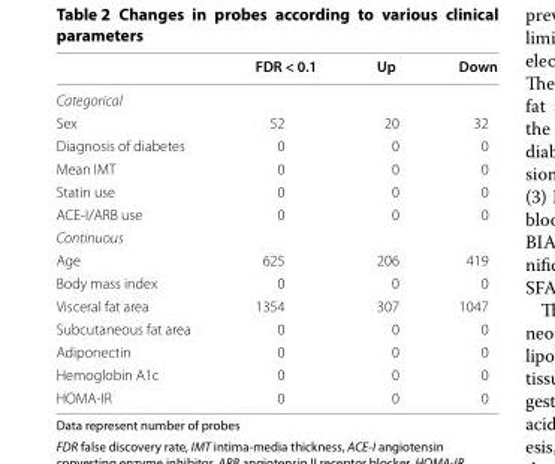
<table><thead><tr><td></td><td>FDR &lt; 0.1</td><td>Up</td><td>Down</td></tr></thead><tbody><tr><td colspan="4">Categorical</td></tr><tr><td>Sex</td><td>52</td><td>20</td><td>32</td></tr><tr><td>Diagnosis of diabetes</td><td>0</td><td>0</td><td>0</td></tr><tr><td>Mean IMT</td><td>0</td><td>0</td><td>0</td></tr><tr><td>Statin use</td><td>0</td><td>0</td><td>0</td></tr><tr><td>ACE‑I/ARB use</td><td>0</td><td>0</td><td>0</td></tr><tr><td colspan="4">Continuous</td></tr><tr><td>Age</td><td>625</td><td>206</td><td>419</td></tr><tr><td>Body mass index</td><td>0</td><td>0</td><td>0</td></tr><tr><td>Visceral fat area</td><td>1354</td><td>307</td><td>1047</td></tr><tr><td>Subcutaneous fat area</td><td>0</td><td>0</td><td>0</td></tr><tr><td>Adiponectin</td><td>0</td><td>0</td><td>0</td></tr><tr><td>Hemoglobin A1c</td><td>0</td><td>0</td><td>0</td></tr><tr><td>HOMA‑IR</td><td>0</td><td>0</td><td>0</td></tr></tbody></table>